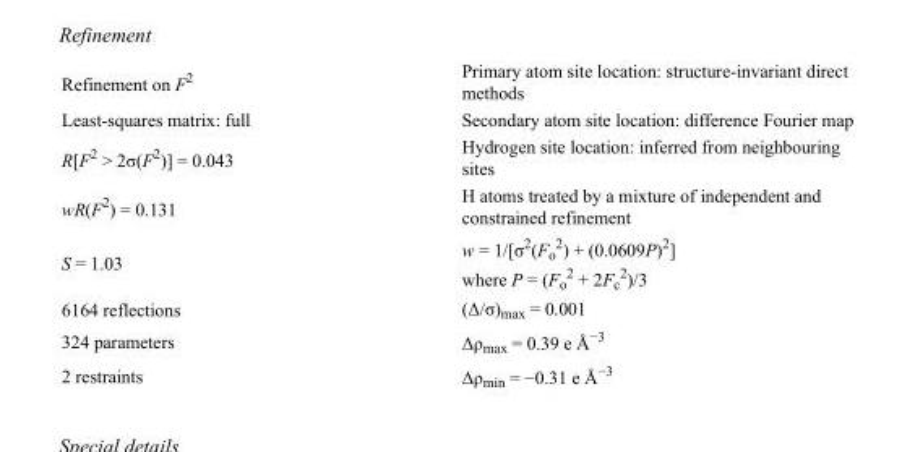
<table><tbody><tr><td>Refinement on F<sup>2</sup></td><td>Primary atom site location: structure-invariant direct methods</td></tr><tr><td>Least-squares matrix: full</td><td>Secondary atom site location: difference Fourier map</td></tr><tr><td>R[F<sup>2</sup> &gt; 2σ(F<sup>2</sup>)] = 0.043</td><td>Hydrogen site location: inferred from neighbouring sites</td></tr><tr><td>wR(F<sup>2</sup>) = 0.131</td><td>H atoms treated by a mixture of independent and constrained refinement</td></tr><tr><td>S = 1.03</td><td>w = 1/[σ<sup>2</sup>(F<sub>o</sub> <sup>2</sup>) + (0.0609P)<sup>2</sup>] where P = (F<sub>o</sub> <sup>2</sup> + 2F<sub>c</sub> <sup>2</sup>)/3</td></tr><tr><td>6164 reflections</td><td>(Δ/σ)<sub>max</sub> = 0.001</td></tr><tr><td>324 parameters</td><td>Δρ<sub>max</sub> = 0.39 e Å<sup>−3</sup></td></tr><tr><td>2 restraints</td><td>Δρ<sub>min</sub> = −0.31 e Å<sup>−3</sup></td></tr></tbody></table>